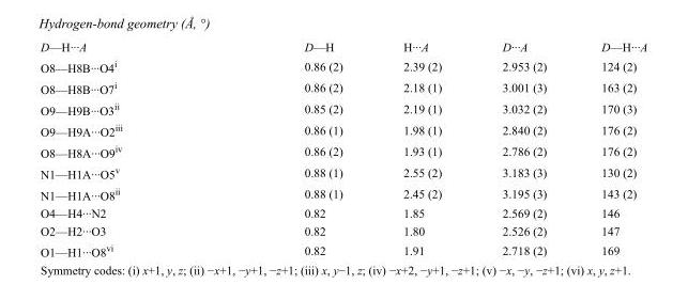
<table><tbody><tr><td>D—H···A</td><td>D—H</td><td>H···A</td><td>D···A</td><td>D—H···A</td></tr><tr><td>O8—H8B···O4<sup>i</sup></td><td>0.86 (2)</td><td>2.39 (2)</td><td>2.953 (2)</td><td>124 (2)</td></tr><tr><td>O8—H8B···O7<sup>i</sup></td><td>0.86 (2)</td><td>2.18 (1)</td><td>3.001 (3)</td><td>163 (2)</td></tr><tr><td>O9—H9B···O3<sup>ii</sup></td><td>0.85 (2)</td><td>2.19 (1)</td><td>3.032 (2)</td><td>170 (3)</td></tr><tr><td>O9—H9A···O2<sup>iii</sup></td><td>0.86 (1)</td><td>1.98 (1)</td><td>2.840 (2)</td><td>176 (2)</td></tr><tr><td>O8—H8A···O9<sup>iv</sup></td><td>0.86 (2)</td><td>1.93 (1)</td><td>2.786 (2)</td><td>176 (2)</td></tr><tr><td>N1—H1A···O5<sup>v</sup></td><td>0.88 (1)</td><td>2.55 (2)</td><td>3.183 (3)</td><td>130 (2)</td></tr><tr><td>N1—H1A···O8<sup>ii</sup></td><td>0.88 (1)</td><td>2.45 (2)</td><td>3.195 (3)</td><td>143 (2)</td></tr><tr><td>O4—H4···N2</td><td>0.82</td><td>1.85</td><td>2.569 (2)</td><td>146</td></tr><tr><td>O2—H2···O3</td><td>0.82</td><td>1.80</td><td>2.526 (2)</td><td>147</td></tr><tr><td>O1—H1···O8<sup>vi</sup></td><td>0.82</td><td>1.91</td><td>2.718 (2)</td><td>169</td></tr></tbody></table>